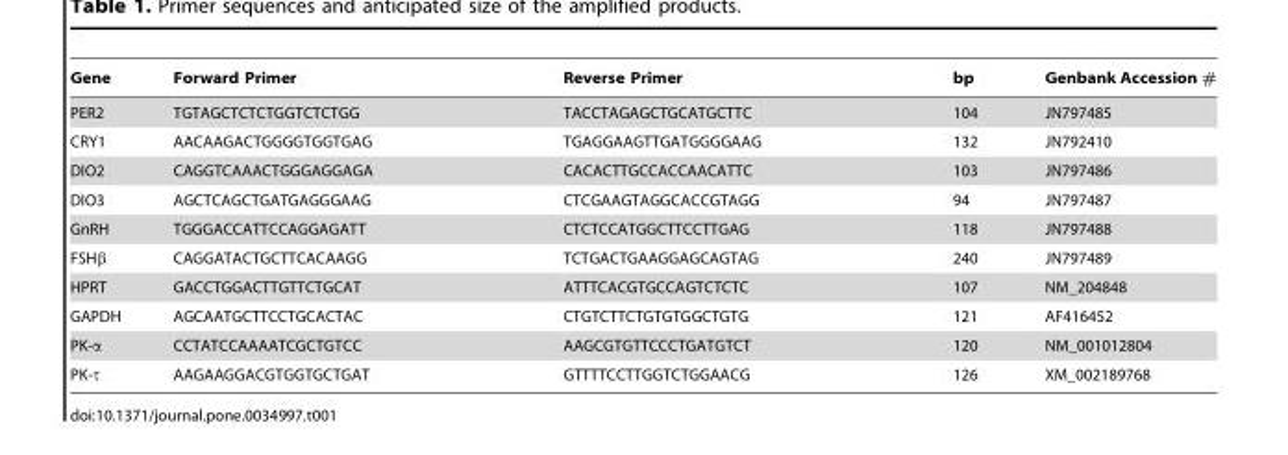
<table><thead><tr><td>Gene</td><td>Forward Primer</td><td>Reverse Primer</td><td>bp</td><td>Genbank Accession #</td></tr></thead><tbody><tr><td>PER2</td><td>TGTAGCTCTCTGGTCTCTGG</td><td>TACCTAGAGCTGCATGCTTC</td><td>104</td><td>JN797485</td></tr><tr><td>CRY1</td><td>AACAAGACTGGGGTGGTGAG</td><td>TGAGGAAGTTGATGGGGAAG</td><td>132</td><td>JN792410</td></tr><tr><td>DIO2</td><td>CAGGTCAAACTGGGAGGAGA</td><td>CACACTTGCCACCAACATTC</td><td>103</td><td>JN797486</td></tr><tr><td>DIO3</td><td>AGCTCAGCTGATGAGGGAAG</td><td>CTCGAAGTAGGCACCGTAGG</td><td>94</td><td>JN797487</td></tr><tr><td>GnRH</td><td>TGGGACCATTCCAGGAGATT</td><td>CTCTCCATGGCTTCCTTGAG</td><td>118</td><td>JN797488</td></tr><tr><td>FSHβ</td><td>CAGGATACTGCTTCACAAGG</td><td>TCTGACTGAAGGAGCAGTAG</td><td>240</td><td>JN797489</td></tr><tr><td>HPRT</td><td>GACCTGGACTTGTTCTGCAT</td><td>ATTTCACGTGCCAGTCTCTC</td><td>107</td><td>NM_204848</td></tr><tr><td>GAPDH</td><td>AGCAATGCTTCCTGCACTAC</td><td>CTGTCTTCTGTGTGGCTGTG</td><td>121</td><td>AF416452</td></tr><tr><td>PK-α</td><td>CCTATCCAAAATCGCTGTCC</td><td>AAGCGTGTTCCCTGATGTCT</td><td>120</td><td>NM_001012804</td></tr><tr><td>PK-τ</td><td>AAGAAGGACGTGGTGCTGAT</td><td>GTTTTCCTTGGTCTGGAACG</td><td>126</td><td>XM_002189768</td></tr></tbody></table>